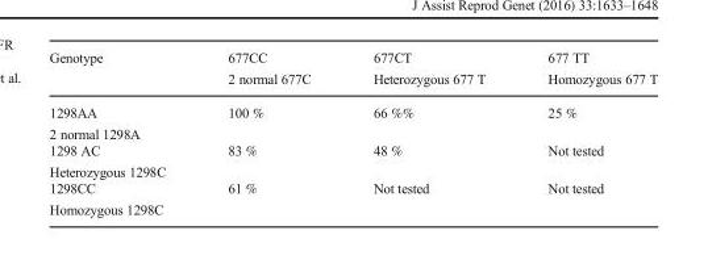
<table><thead><tr><td>Genotype</td><td>677CC 2 normal 677C</td><td>677CT Heterozygous 677 T</td><td>677 TT Homozygous 677 T</td></tr></thead><tbody><tr><td>1298AA 2 normal 1298A</td><td>100 %</td><td>66 %%</td><td>25 %</td></tr><tr><td>1298 AC Heterozygous 1298C</td><td>83 %</td><td>48 %</td><td>Not tested</td></tr><tr><td>1298CC Homozygous 1298C</td><td>61 %</td><td>Not tested</td><td>Not tested</td></tr></tbody></table>